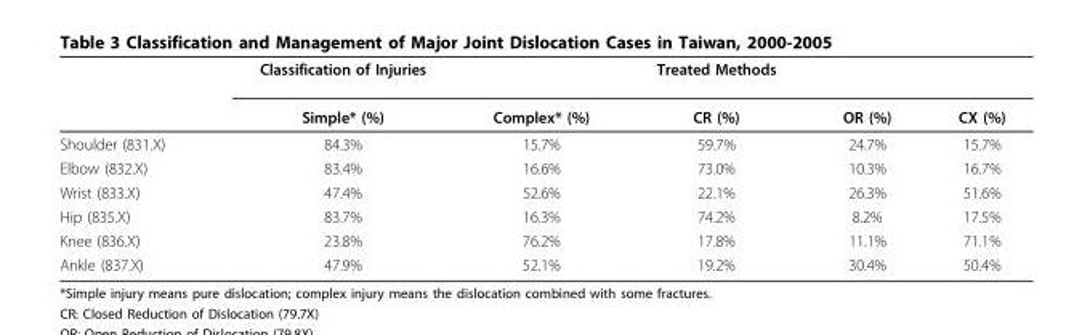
<table><thead><tr><td rowspan="2"></td><td rowspan="2">Classification of Injuries Simple* (%)</td><td rowspan="2">Complex* (%)</td><td rowspan="2">Treated Methods CR (%)</td><td rowspan="2">OR (%)</td><td rowspan="2">CX (%)</td></tr><tr></tr></thead><tbody><tr><td>Shoulder (831.X)</td><td>84.3%</td><td>15.7%</td><td>59.7%</td><td>24.7%</td><td>15.7%</td></tr><tr><td>Elbow (832.X)</td><td>83.4%</td><td>16.6%</td><td>73.0%</td><td>10.3%</td><td>16.7%</td></tr><tr><td>Wrist (833.X)</td><td>47.4%</td><td>52.6%</td><td>22.1%</td><td>26.3%</td><td>51.6%</td></tr><tr><td>Hip (835.X)</td><td>83.7%</td><td>16.3%</td><td>74.2%</td><td>8.2%</td><td>17.5%</td></tr><tr><td>Knee (836.X)</td><td>23.8%</td><td>76.2%</td><td>17.8%</td><td>11.1%</td><td>71.1%</td></tr><tr><td>Ankle (837.X)</td><td>47.9%</td><td>52.1%</td><td>19.2%</td><td>30.4%</td><td>50.4%</td></tr></tbody></table>